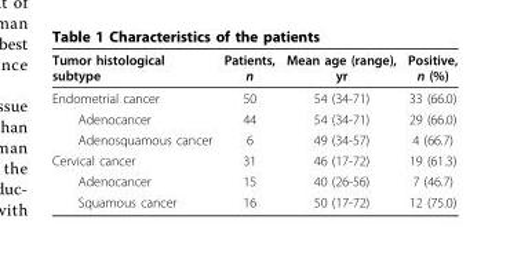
<table><thead><tr><td>Tumor histological subtype</td><td>Patients, n</td><td>Mean age (range), yr</td><td>Positive, n (%)</td></tr></thead><tbody><tr><td>Endometrial cancer</td><td>50</td><td>54 (34-71)</td><td>33 (66.0)</td></tr><tr><td>Adenocancer</td><td>44</td><td>54 (34-71)</td><td>29 (66.0)</td></tr><tr><td>Adenosquamous cancer</td><td>6</td><td>49 (34-57)</td><td>4 (66.7)</td></tr><tr><td>Cervical cancer</td><td>31</td><td>46 (17-72)</td><td>19 (61.3)</td></tr><tr><td>Adenocancer</td><td>15</td><td>40 (26-56)</td><td>7 (46.7)</td></tr><tr><td>Squamous cancer</td><td>16</td><td>50 (17-72)</td><td>12 (75.0)</td></tr></tbody></table>